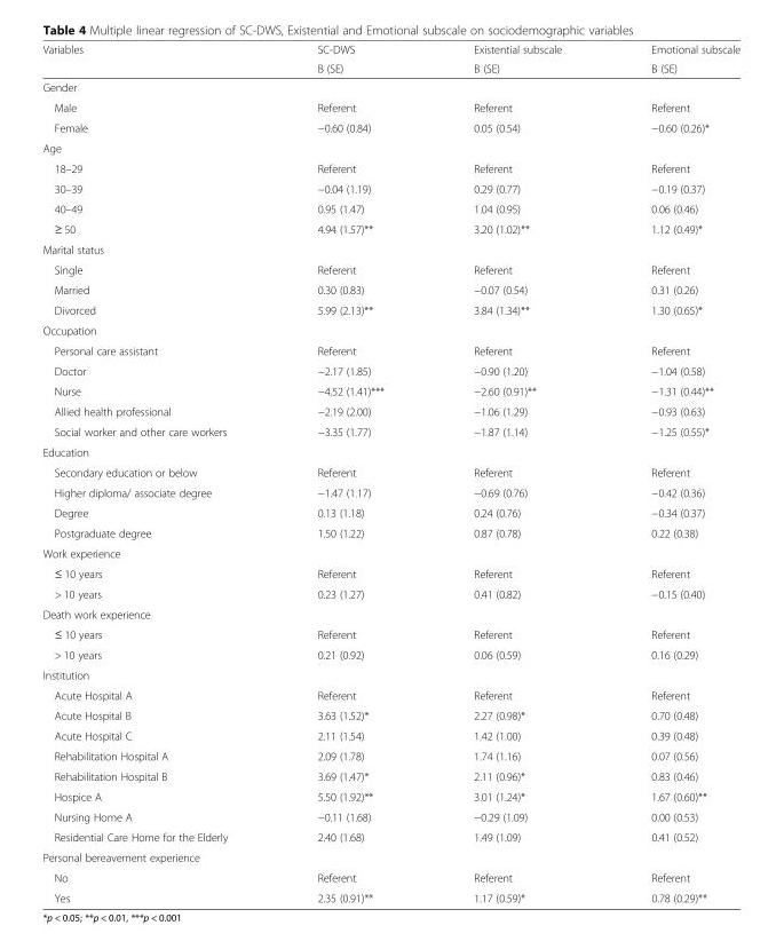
<table><thead><tr><td rowspan="2">Variables</td><td rowspan="2">SC-DWS B (SE)</td><td rowspan="2">Existential subscale B (SE)</td><td rowspan="2">Emotional subscale B (SE)</td></tr><tr></tr></thead><tbody><tr><td colspan="4">Gender</td></tr><tr><td>Male</td><td>Referent</td><td>Referent</td><td>Referent</td></tr><tr><td>Female</td><td>−0.60 (0.84)</td><td>0.05 (0.54)</td><td>−0.60 (0.26)*</td></tr><tr><td colspan="4">Age</td></tr><tr><td>18–29</td><td>Referent</td><td>Referent</td><td>Referent</td></tr><tr><td>30–39</td><td>−0.04 (1.19)</td><td>0.29 (0.77)</td><td>−0.19 (0.37)</td></tr><tr><td>40–49</td><td>0.95 (1.47)</td><td>1.04 (0.95)</td><td>0.06 (0.46)</td></tr><tr><td>≥ 50</td><td>4.94 (1.57)**</td><td>3.20 (1.02)**</td><td>1.12 (0.49)*</td></tr><tr><td colspan="4">Marital status</td></tr><tr><td>Single</td><td>Referent</td><td>Referent</td><td>Referent</td></tr><tr><td>Married</td><td>0.30 (0.83)</td><td>−0.07 (0.54)</td><td>0.31 (0.26)</td></tr><tr><td>Divorced</td><td>5.99 (2.13)**</td><td>3.84 (1.34)**</td><td>1.30 (0.65)*</td></tr><tr><td colspan="4">Occupation</td></tr><tr><td>Personal care assistant</td><td>Referent</td><td>Referent</td><td>Referent</td></tr><tr><td>Doctor</td><td>−2.17 (1.85)</td><td>−0.90 (1.20)</td><td>−1.04 (0.58)</td></tr><tr><td>Nurse</td><td>−4.52 (1.41)***</td><td>−2.60 (0.91)**</td><td>−1.31 (0.44)**</td></tr><tr><td>Allied health professional</td><td>−2.19 (2.00)</td><td>−1.06 (1.29)</td><td>−0.93 (0.63)</td></tr><tr><td>Social worker and other care workers</td><td>−3.35 (1.77)</td><td>−1.87 (1.14)</td><td>−1.25 (0.55)*</td></tr><tr><td colspan="4">Education</td></tr><tr><td>Secondary education or below</td><td>Referent</td><td>Referent</td><td>Referent</td></tr><tr><td>Higher diploma/ associate degree</td><td>−1.47 (1.17)</td><td>−0.69 (0.76)</td><td>−0.42 (0.36)</td></tr><tr><td>Degree</td><td>0.13 (1.18)</td><td>0.24 (0.76)</td><td>−0.34 (0.37)</td></tr><tr><td>Postgraduate degree</td><td>1.50 (1.22)</td><td>0.87 (0.78)</td><td>0.22 (0.38)</td></tr><tr><td colspan="4">Work experience</td></tr><tr><td>≤ 10 years</td><td>Referent</td><td>Referent</td><td>Referent</td></tr><tr><td>&gt; 10 years</td><td>0.23 (1.27)</td><td>0.41 (0.82)</td><td>−0.15 (0.40)</td></tr><tr><td colspan="4">Death work experience</td></tr><tr><td>≤ 10 years</td><td>Referent</td><td>Referent</td><td>Referent</td></tr><tr><td>&gt; 10 years</td><td>0.21 (0.92)</td><td>0.06 (0.59)</td><td>0.16 (0.29)</td></tr><tr><td colspan="4">Institution</td></tr><tr><td>Acute Hospital A</td><td>Referent</td><td>Referent</td><td>Referent</td></tr><tr><td>Acute Hospital B</td><td>3.63 (1.52)*</td><td>2.27 (0.98)*</td><td>0.70 (0.48)</td></tr><tr><td>Acute Hospital C</td><td>2.11 (1.54)</td><td>1.42 (1.00)</td><td>0.39 (0.48)</td></tr><tr><td>Rehabilitation Hospital A</td><td>2.09 (1.78)</td><td>1.74 (1.16)</td><td>0.07 (0.56)</td></tr><tr><td>Rehabilitation Hospital B</td><td>3.69 (1.47)*</td><td>2.11 (0.96)*</td><td>0.83 (0.46)</td></tr><tr><td>Hospice A</td><td>5.50 (1.92)**</td><td>3.01 (1.24)*</td><td>1.67 (0.60)**</td></tr><tr><td>Nursing Home A</td><td>−0.11 (1.68)</td><td>−0.29 (1.09)</td><td>0.00 (0.53)</td></tr><tr><td>Residential Care Home for the Elderly</td><td>2.40 (1.68)</td><td>1.49 (1.09)</td><td>0.41 (0.52)</td></tr><tr><td colspan="4">Personal bereavement experience</td></tr><tr><td>No</td><td>Referent</td><td>Referent</td><td>Referent</td></tr><tr><td>Yes</td><td>2.35 (0.91)**</td><td>1.17 (0.59)*</td><td>0.78 (0.29)**</td></tr></tbody></table>